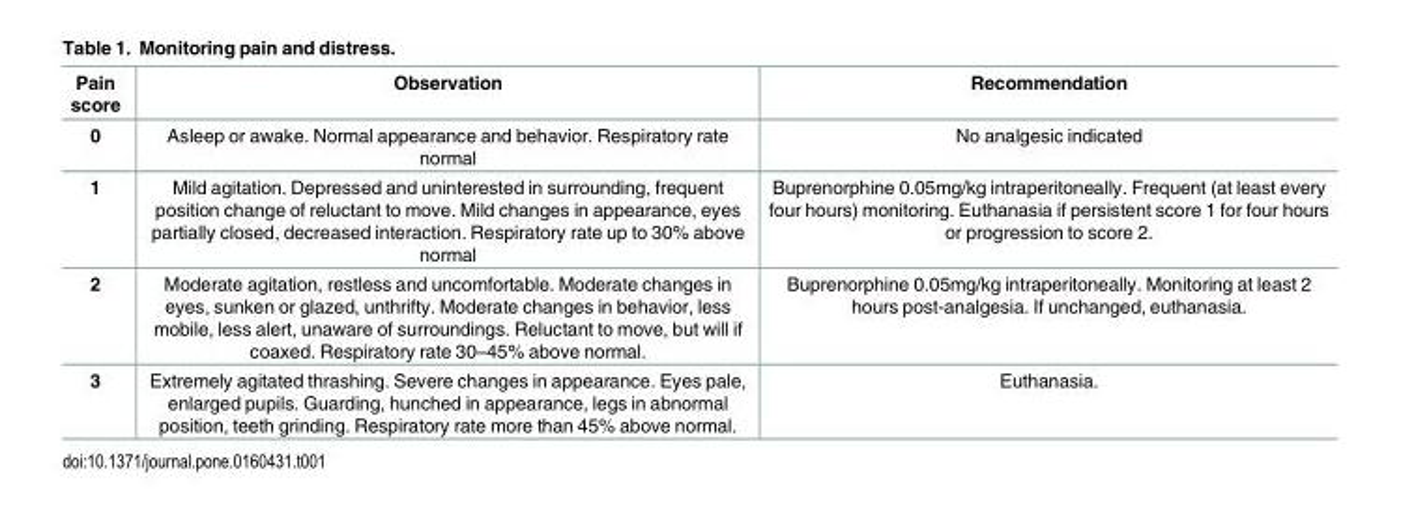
<table><thead><tr><td>Pain score</td><td>Observation</td><td>Recommendation</td></tr></thead><tbody><tr><td>0</td><td>Asleep or awake. Normal appearance and behavior. Respiratory rate normal</td><td>No analgesic indicated</td></tr><tr><td>1</td><td>Mild agitation. Depressed and uninterested in surrounding, frequent position change of reluctant to move. Mild changes in appearance, eyes partially closed, decreased interaction. Respiratory rate up to 30% above normal</td><td>Buprenorphine 0.05mg/kg intraperitoneally. Frequent (at least every four hours) monitoring. Euthanasia if persistent score 1 for four hours or progression to score 2.</td></tr><tr><td>2</td><td>Moderate agitation, restless and uncomfortable. Moderate changes in eyes, sunken or glazed, unthrifty. Moderate changes in behavior, less mobile, less alert, unaware of surroundings. Reluctant to move, but will if coaxed. Respiratory rate 30–45% above normal.</td><td>Buprenorphine 0.05mg/kg intraperitoneally. Monitoring at least 2 hours post-analgesia. If unchanged, euthanasia.</td></tr><tr><td>3</td><td>Extremely agitated thrashing. Severe changes in appearance. Eyes pale, enlarged pupils. Guarding, hunched in appearance, legs in abnormal position, teeth grinding. Respiratory rate more than 45% above normal.</td><td>Euthanasia.</td></tr></tbody></table>